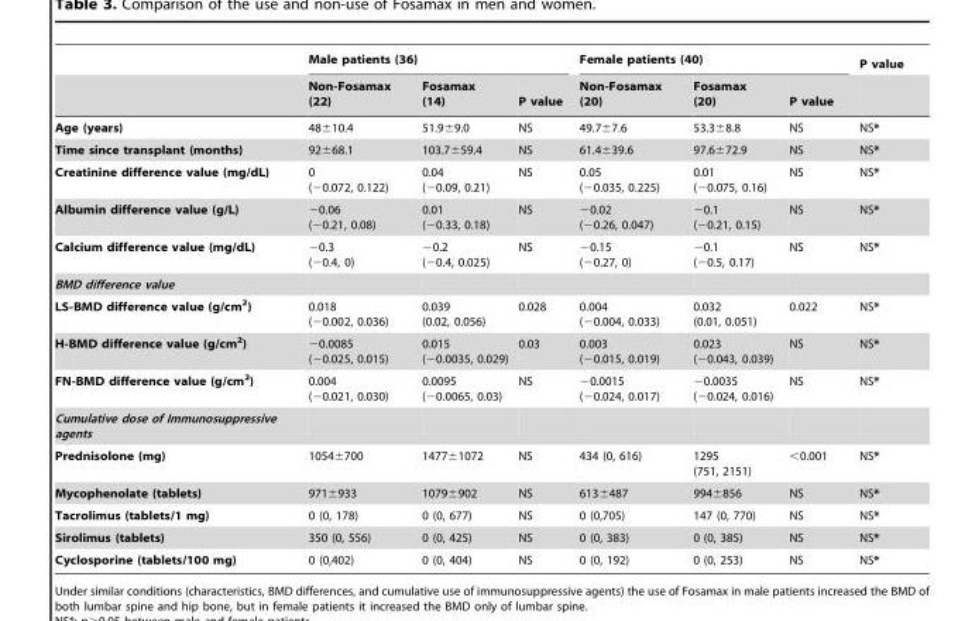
<table><thead><tr><td rowspan="2"></td><td colspan="3">Male patients (36)</td><td colspan="3">Female patients (40)</td><td rowspan="2">P value</td></tr><tr><td>Non-Fosamax (22)</td><td>Fosamax (14)</td><td>P value</td><td>Non-Fosamax (20)</td><td>Fosamax (20)</td><td>P value</td></tr></thead><tbody><tr><td>Age (years)</td><td>48±10.4</td><td>51.9±9.0</td><td>NS</td><td>49.7±7.6</td><td>53.3±8.8</td><td>NS</td><td>NS*</td></tr><tr><td>Time since transplant (months)</td><td>92±68.1</td><td>103.7±59.4</td><td>NS</td><td>61.4±39.6</td><td>97.6±72.9</td><td>NS</td><td>NS*</td></tr><tr><td>Creatinine difference value (mg/dL)</td><td>0 (−0.072, 0.122)</td><td>0.04 (−0.09, 0.21)</td><td>NS</td><td>0.05 (−0.035, 0.225)</td><td>0.01 (−0.075, 0.16)</td><td>NS</td><td>NS*</td></tr><tr><td>Albumin difference value (g/L)</td><td>−0.06 (−0.21, 0.08)</td><td>0.01 (−0.33, 0.18)</td><td>NS</td><td>−0.02 (−0.26, 0.047)</td><td>−0.1 (−0.21, 0.15)</td><td>NS</td><td>NS*</td></tr><tr><td>Calcium difference value (mg/dL)</td><td>−0.3 (−0.4, 0)</td><td>−0.2 (−0.4, 0.025)</td><td>NS</td><td>−0.15 (−0.27, 0)</td><td>−0.1 (−0.5, 0.17)</td><td>NS</td><td>NS*</td></tr><tr><td colspan="8">BMD difference value</td></tr><tr><td>LS-BMD difference value (g/cm<sup>2</sup>)</td><td>0.018 (−0.002, 0.036)</td><td>0.039 (0.02, 0.056)</td><td>0.028</td><td>0.004 (−0.004, 0.033)</td><td>0.032 (0.01, 0.051)</td><td>0.022</td><td>NS*</td></tr><tr><td>H-BMD difference value (g/cm<sup>2</sup>)</td><td>−0.0085 (−0.025, 0.015)</td><td>0.015 (−0.0035, 0.029)</td><td>0.03</td><td>0.003 (−0.015, 0.019)</td><td>0.023 (−0.043, 0.039)</td><td>NS</td><td>NS*</td></tr><tr><td>FN-BMD difference value (g/cm<sup>2</sup>)</td><td>0.004 (−0.021, 0.030)</td><td>0.0095 (−0.0065, 0.03)</td><td>NS</td><td>−0.0015 (−0.024, 0.017)</td><td>−0.0035 (−0.024, 0.016)</td><td>NS</td><td>NS*</td></tr><tr><td colspan="8">Cumulative dose of Immunosuppressive agents</td></tr><tr><td>Prednisolone (mg)</td><td>1054±700</td><td>1477±1072</td><td>NS</td><td>434 (0, 616)</td><td>1295 (751, 2151)</td><td>&lt;0.001</td><td>NS*</td></tr><tr><td>Mycophenolate (tablets)</td><td>971±933</td><td>1079±902</td><td>NS</td><td>613±487</td><td>994±856</td><td>NS</td><td>NS*</td></tr><tr><td>Tacrolimus (tablets/1 mg)</td><td>0 (0, 178)</td><td>0 (0, 677)</td><td>NS</td><td>0 (0,705)</td><td>147 (0, 770)</td><td>NS</td><td>NS*</td></tr><tr><td>Sirolimus (tablets)</td><td>350 (0, 556)</td><td>0 (0, 425)</td><td>NS</td><td>0 (0, 383)</td><td>0 (0, 385)</td><td>NS</td><td>NS*</td></tr><tr><td>Cyclosporine (tablets/100 mg)</td><td>0 (0,402)</td><td>0 (0, 404)</td><td>NS</td><td>0 (0, 192)</td><td>0 (0, 253)</td><td>NS</td><td>NS*</td></tr></tbody></table>